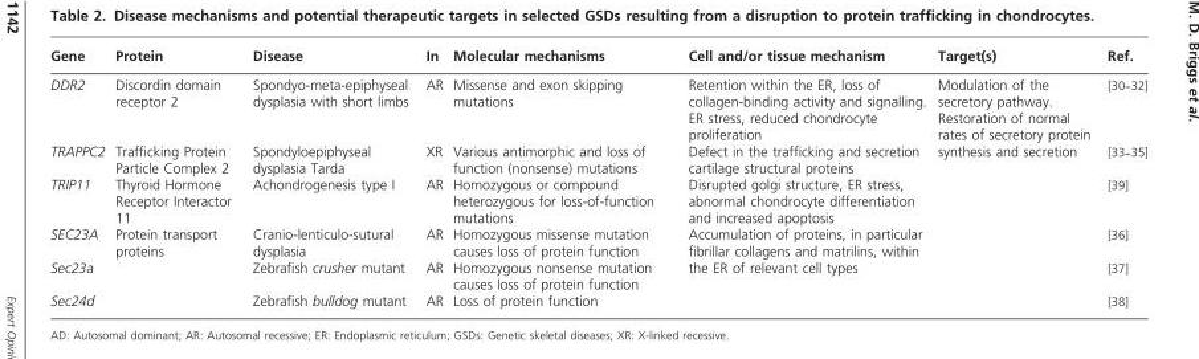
<table><thead><tr><td>Gene</td><td>Protein</td><td>Disease</td><td>In</td><td>Molecular mechanisms</td><td>Cell and/or tissue mechanism</td><td>Target(s)</td><td>Ref.</td></tr></thead><tbody><tr><td>DDR2</td><td>Discordin domain receptor 2</td><td>Spondyo-meta-epiphyseal dysplasia with short limbs</td><td>AR</td><td>Missense and exon skipping mutations</td><td>Retention within the ER, loss of collagen-binding activity and signalling. ER stress, reduced chondrocyte proliferation</td><td rowspan="6">Modulation of the secretory pathway. Restoration of normal rates of secretory protein synthesis and secretion</td><td>[30--32]</td></tr><tr><td>TRAPPC2</td><td>Trafficking Protein Particle Complex 2</td><td>Spondyloepiphyseal dysplasia Tarda</td><td>XR</td><td>Various antimorphic and loss of function (nonsense) mutations</td><td>Defect in the trafficking and secretion cartilage structural proteins</td><td>[33--35]</td></tr><tr><td>TRIP11</td><td>Thyroid Hormone Receptor Interactor 11</td><td>Achondrogenesis type I</td><td>AR</td><td>Homozygous or compound heterozygous for loss-of-function mutations</td><td>Disrupted golgi structure, ER stress, abnormal chondrocyte differentiation and increased apoptosis</td><td>[39]</td></tr><tr><td>SEC23A</td><td rowspan="3">Protein transport proteins</td><td>Cranio-lenticulo-sutural dysplasia</td><td>AR</td><td>Homozygous missense mutation causes loss of protein function</td><td rowspan="3">Accumulation of proteins, in particular fibrillar collagens and matrilins, within the ER of relevant cell types</td><td>[36]</td></tr><tr><td>Sec23a</td><td>Zebrafish crusher mutant</td><td>AR</td><td>Homozygous nonsense mutation causes loss of protein function</td><td>[37]</td></tr><tr><td>Sec24d</td><td>Zebrafish bulldog mutant</td><td>AR</td><td>Loss of protein function</td><td>[38]</td></tr></tbody></table>